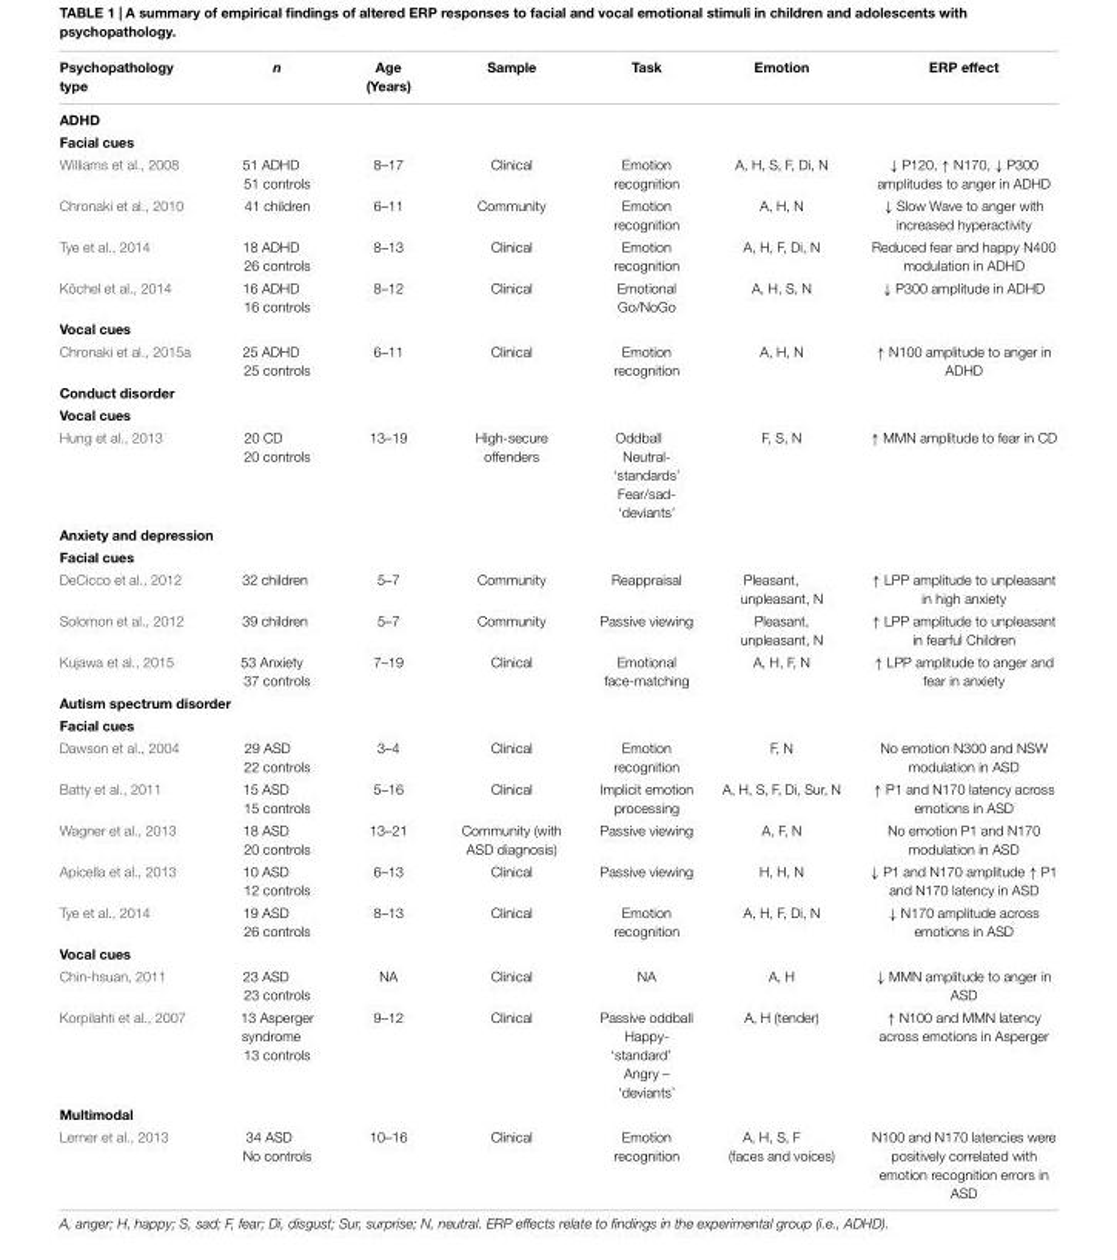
<table><thead><tr><td>Psychopathology type</td><td>n</td><td>Age (Years)</td><td>Sample</td><td>Task</td><td>Emotion</td><td>ERP effect</td></tr></thead><tbody><tr><td colspan="7">ADHD</td></tr><tr><td colspan="7">Facial cues</td></tr><tr><td>Williams et al., 2008</td><td>51 ADHD 51 controls</td><td>8–17</td><td>Clinical</td><td>Emotion recognition</td><td>A, H, S, F, Di, N</td><td>↓ P120, ↑ N170, ↓ P300 amplitudes to anger in ADHD</td></tr><tr><td>Chronaki et al., 2010</td><td>41 children</td><td>6–11</td><td>Community</td><td>Emotion recognition</td><td>A, H, N</td><td>↓ Slow Wave to anger with increased hyperactivity</td></tr><tr><td>Tye et al., 2014</td><td>18 ADHD 26 controls</td><td>8–13</td><td>Clinical</td><td>Emotion recognition</td><td>A, H, F, Di, N</td><td>Reduced fear and happy N400 modulation in ADHD</td></tr><tr><td>Köchel et al., 2014</td><td>16 ADHD 16 controls</td><td>8–12</td><td>Clinical</td><td>Emotional Go/NoGo</td><td>A, H, S, N</td><td>↓ P300 amplitude in ADHD</td></tr><tr><td colspan="7">Vocal cues</td></tr><tr><td>Chronaki et al., 2015a</td><td>25 ADHD 25 controls</td><td>6–11</td><td>Clinical</td><td>Emotion recognition</td><td>A, H, N</td><td>↑ N100 amplitude to anger in ADHD</td></tr><tr><td colspan="7">Conduct disorder</td></tr><tr><td colspan="7">Vocal cues</td></tr><tr><td>Hung et al., 2013</td><td>20 CD 20 controls</td><td>13–19</td><td>High-secure offenders</td><td>Oddball Neutral- ‘standards’ Fear/sad- ‘deviants’</td><td>F, S, N</td><td>↑ MMN amplitude to fear in CD</td></tr><tr><td colspan="7">Anxiety and depression</td></tr><tr><td colspan="7">Facial cues</td></tr><tr><td>DeCicco et al., 2012</td><td>32 children</td><td>5–7</td><td>Community</td><td>Reappraisal</td><td>Pleasant, unpleasant, N</td><td>↑ LPP amplitude to unpleasant in high anxiety</td></tr><tr><td>Solomon et al., 2012</td><td>39 children</td><td>5–7</td><td>Community</td><td>Passive viewing</td><td>Pleasant, unpleasant, N</td><td>↑ LPP amplitude to unpleasant in fearful Children</td></tr><tr><td>Kujawa et al., 2015</td><td>53 Anxiety 37 controls</td><td>7–19</td><td>Clinical</td><td>Emotional face-matching</td><td>A, H, F, N</td><td>↑ LPP amplitude to anger and fear in anxiety</td></tr><tr><td colspan="7">Autism spectrum disorder</td></tr><tr><td colspan="7">Facial cues</td></tr><tr><td>Dawson et al., 2004</td><td>29 ASD 22 controls</td><td>3–4</td><td>Clinical</td><td>Emotion recognition</td><td>F, N</td><td>No emotion N300 and NSW modulation in ASD</td></tr><tr><td>Batty et al., 2011</td><td>15 ASD 15 controls</td><td>5–16</td><td>Clinical</td><td>Implicit emotion processing</td><td>A, H, S, F, Di, Sur, N</td><td>↑ P1 and N170 latency across emotions in ASD</td></tr><tr><td>Wagner et al., 2013</td><td>18 ASD 20 controls</td><td>13–21</td><td>Community (with ASD diagnosis)</td><td>Passive viewing</td><td>A, F, N</td><td>No emotion P1 and N170 modulation in ASD</td></tr><tr><td>Apicella et al., 2013</td><td>10 ASD 12 controls</td><td>6–13</td><td>Clinical</td><td>Passive viewing</td><td>H, H, N</td><td>↓ P1 and N170 amplitude ↑ P1 and N170 latency in ASD</td></tr><tr><td>Tye et al., 2014</td><td>19 ASD 26 controls</td><td>8–13</td><td>Clinical</td><td>Emotion recognition</td><td>A, H, F, Di, N</td><td>↓ N170 amplitude across emotions in ASD</td></tr><tr><td colspan="7">Vocal cues</td></tr><tr><td>Chin-hsuan, 2011</td><td>23 ASD 23 controls</td><td>NA</td><td>Clinical</td><td>NA</td><td>A, H</td><td>↓ MMN amplitude to anger in ASD</td></tr><tr><td>Korpilahti et al., 2007</td><td>13 Asperger syndrome 13 controls</td><td>9–12</td><td>Clinical</td><td>Passive oddball Happy- ‘standard’ Angry – ‘deviants’</td><td>A, H (tender)</td><td>↑ N100 and MMN latency across emotions in Asperger</td></tr><tr><td colspan="7">Multimodal</td></tr><tr><td>Lerner et al., 2013</td><td>34 ASD No controls</td><td>10–16</td><td>Clinical</td><td>Emotion recognition</td><td>A, H, S, F (faces and voices)</td><td>N100 and N170 latencies were positively correlated with emotion recognition errors in ASD</td></tr></tbody></table>